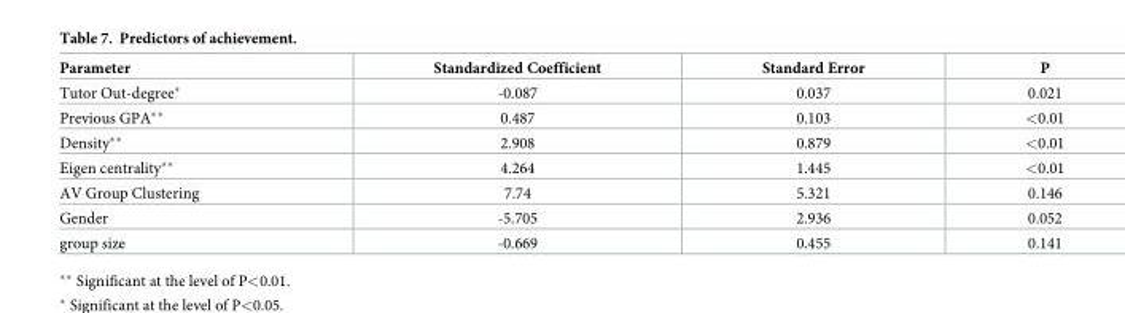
<table><thead><tr><td>Parameter</td><td>Standardized Coefficient</td><td>Standard Error</td><td>P</td></tr></thead><tbody><tr><td>Tutor Out-degree*</td><td>-0.087</td><td>0.037</td><td>0.021</td></tr><tr><td>Previous GPA**</td><td>0.487</td><td>0.103</td><td>&lt;0.01</td></tr><tr><td>Density**</td><td>2.908</td><td>0.879</td><td>&lt;0.01</td></tr><tr><td>Eigen centrality**</td><td>4.264</td><td>1.445</td><td>&lt;0.01</td></tr><tr><td>AV Group Clustering</td><td>7.74</td><td>5.321</td><td>0.146</td></tr><tr><td>Gender</td><td>-5.705</td><td>2.936</td><td>0.052</td></tr><tr><td>group size</td><td>-0.669</td><td>0.455</td><td>0.141</td></tr></tbody></table>